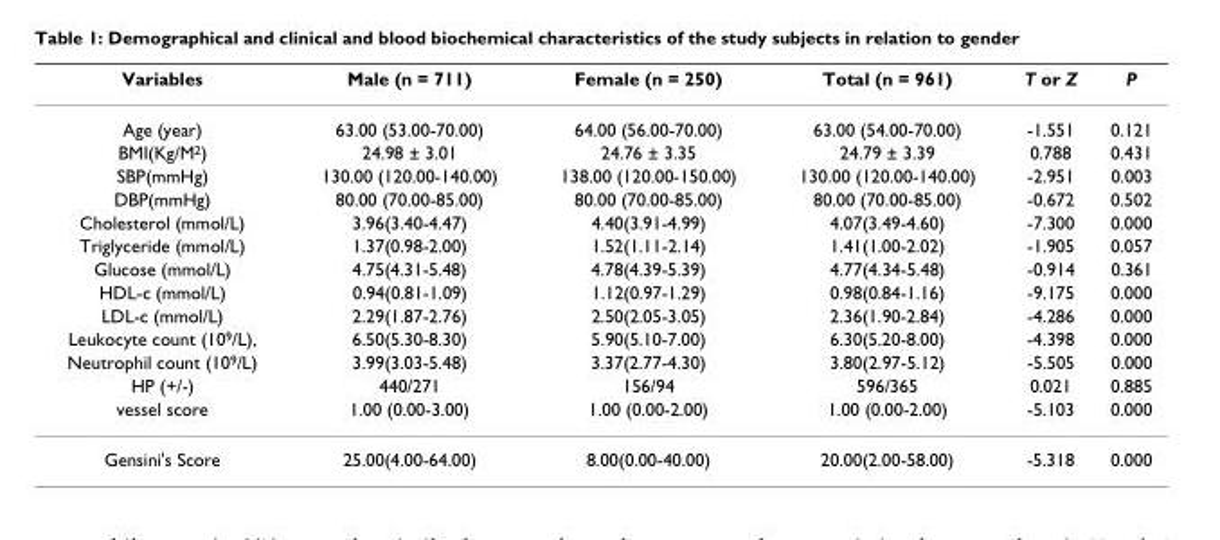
<table><thead><tr><td>Variables</td><td>Male (n = 711)</td><td>Female (n = 250)</td><td>Total (n = 961)</td><td>T or Z</td><td>P</td></tr></thead><tbody><tr><td>Age (year)</td><td>63.00 (53.00-70.00)</td><td>64.00 (56.00-70.00)</td><td>63.00 (54.00-70.00)</td><td>-1.551</td><td>0.121</td></tr><tr><td>BMI(Kg/M<sup>2</sup>)</td><td>24.98 ± 3.01</td><td>24.76 ± 3.35</td><td>24.79 ± 3.39</td><td>0.788</td><td>0.431</td></tr><tr><td>SBP(mmHg)</td><td>130.00 (120.00-140.00)</td><td>138.00 (120.00-150.00)</td><td>130.00 (120.00-140.00)</td><td>-2.951</td><td>0.003</td></tr><tr><td>DBP(mmHg)</td><td>80.00 (70.00-85.00)</td><td>80.00 (70.00-85.00)</td><td>80.00 (70.00-85.00)</td><td>-0.672</td><td>0.502</td></tr><tr><td>Cholesterol (mmol/L)</td><td>3.96(3.40-4.47)</td><td>4.40(3.91-4.99)</td><td>4.07(3.49-4.60)</td><td>-7.300</td><td>0.000</td></tr><tr><td>Triglyceride (mmol/L)</td><td>1.37(0.98-2.00)</td><td>1.52(1.11-2.14)</td><td>1.41(1.00-2.02)</td><td>-1.905</td><td>0.057</td></tr><tr><td>Glucose (mmol/L)</td><td>4.75(4.31-5.48)</td><td>4.78(4.39-5.39)</td><td>4.77(4.34-5.48)</td><td>-0.914</td><td>0.361</td></tr><tr><td>HDL-c (mmol/L)</td><td>0.94(0.81-1.09)</td><td>1.12(0.97-1.29)</td><td>0.98(0.84-1.16)</td><td>-9.175</td><td>0.000</td></tr><tr><td>LDL-c (mmol/L)</td><td>2.29(1.87-2.76)</td><td>2.50(2.05-3.05)</td><td>2.36(1.90-2.84)</td><td>-4.286</td><td>0.000</td></tr><tr><td>Leukocyte count (10<sup>9</sup>/L),</td><td>6.50(5.30-8.30)</td><td>5.90(5.10-7.00)</td><td>6.30(5.20-8.00)</td><td>-4.398</td><td>0.000</td></tr><tr><td>Neutrophil count (10<sup>9</sup>/L)</td><td>3.99(3.03-5.48)</td><td>3.37(2.77-4.30)</td><td>3.80(2.97-5.12)</td><td>-5.505</td><td>0.000</td></tr><tr><td>HP (+/-)</td><td>440/271</td><td>156/94</td><td>596/365</td><td>0.021</td><td>0.885</td></tr><tr><td>vessel score</td><td>1.00 (0.00-3.00)</td><td>1.00 (0.00-2.00)</td><td>1.00 (0.00-2.00)</td><td>-5.103</td><td>0.000</td></tr><tr><td>Gensini&#x27;s Score</td><td>25.00(4.00-64.00)</td><td>8.00(0.00-40.00)</td><td>20.00(2.00-58.00)</td><td>-5.318</td><td>0.000</td></tr></tbody></table>